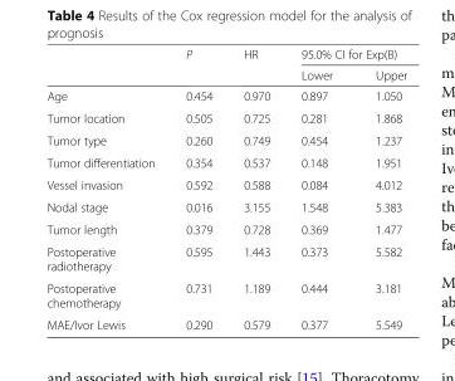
<table><thead><tr><td rowspan="2"></td><td rowspan="2">P</td><td rowspan="2">HR</td><td colspan="2">95.0% CI for Exp(B)</td></tr><tr><td>Lower</td><td>Upper</td></tr></thead><tbody><tr><td>Age</td><td>0.454</td><td>0.970</td><td>0.897</td><td>1.050</td></tr><tr><td>Tumor location</td><td>0.505</td><td>0.725</td><td>0.281</td><td>1.868</td></tr><tr><td>Tumor type</td><td>0.260</td><td>0.749</td><td>0.454</td><td>1.237</td></tr><tr><td>Tumor differentiation</td><td>0.354</td><td>0.537</td><td>0.148</td><td>1.951</td></tr><tr><td>Vessel invasion</td><td>0.592</td><td>0.588</td><td>0.084</td><td>4.012</td></tr><tr><td>Nodal stage</td><td>0.016</td><td>3.155</td><td>1.548</td><td>5.383</td></tr><tr><td>Tumor length</td><td>0.379</td><td>0.728</td><td>0.369</td><td>1.477</td></tr><tr><td>Postoperative radiotherapy</td><td>0.595</td><td>1.443</td><td>0.373</td><td>5.582</td></tr><tr><td>Postoperative chemotherapy</td><td>0.731</td><td>1.189</td><td>0.444</td><td>3.181</td></tr><tr><td>MAE/Ivor Lewis</td><td>0.290</td><td>0.579</td><td>0.377</td><td>5.549</td></tr></tbody></table>